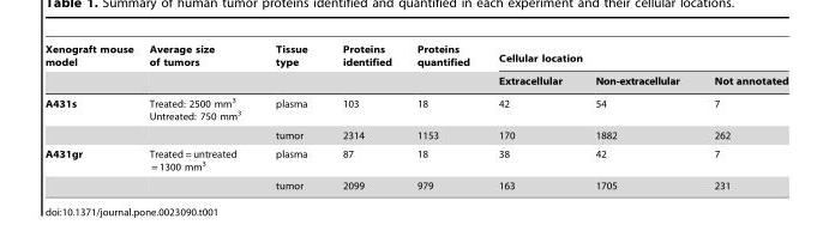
<table><thead><tr><td rowspan="2">Xenograft mouse model</td><td rowspan="2">Average size of tumors</td><td rowspan="2">Tissue type</td><td rowspan="2">Proteins identified</td><td rowspan="2">Proteins quantified</td><td colspan="3">Cellular location</td></tr><tr><td>Extracellular</td><td>Non-extracellular</td><td>Not annotated</td></tr></thead><tbody><tr><td rowspan="2">A431s</td><td>Treated: 2500 mm<sup>3</sup> Untreated: 750 mm<sup>3</sup></td><td>plasma</td><td>103</td><td>18</td><td>42</td><td>54</td><td>7</td></tr><tr><td></td><td>tumor</td><td>2314</td><td>1153</td><td>170</td><td>1882</td><td>262</td></tr><tr><td rowspan="2">A431gr</td><td>Treated = untreated = 1300 mm<sup>3</sup></td><td>plasma</td><td>87</td><td>18</td><td>38</td><td>42</td><td>7</td></tr><tr><td></td><td>tumor</td><td>2099</td><td>979</td><td>163</td><td>1705</td><td>231</td></tr></tbody></table>